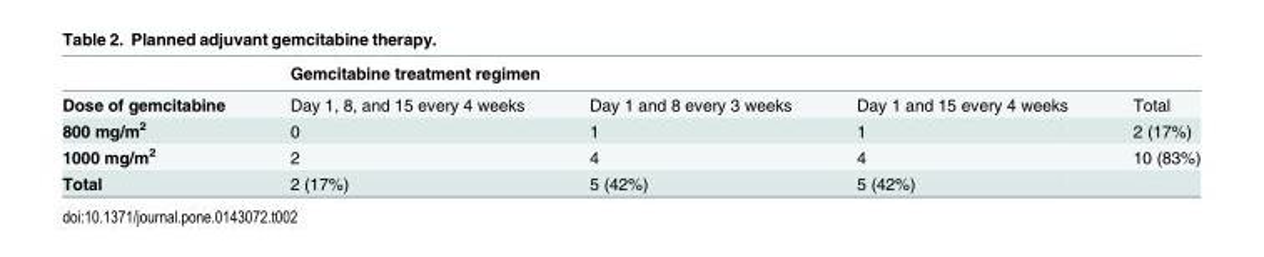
<table><thead><tr><td rowspan="2">Dose of gemcitabine</td><td colspan="3">Gemcitabine treatment regimen</td><td rowspan="2">Total</td></tr><tr><td>Day 1, 8, and 15 every 4 weeks</td><td>Day 1 and 8 every 3 weeks</td><td>Day 1 and 15 every 4 weeks</td></tr></thead><tbody><tr><td>800 mg/m<sup>2</sup></td><td>0</td><td>1</td><td>1</td><td>2 (17%)</td></tr><tr><td>1000 mg/m<sup>2</sup></td><td>2</td><td>4</td><td>4</td><td>10 (83%)</td></tr><tr><td>Total</td><td>2 (17%)</td><td>5 (42%)</td><td>5 (42%)</td><td></td></tr></tbody></table>